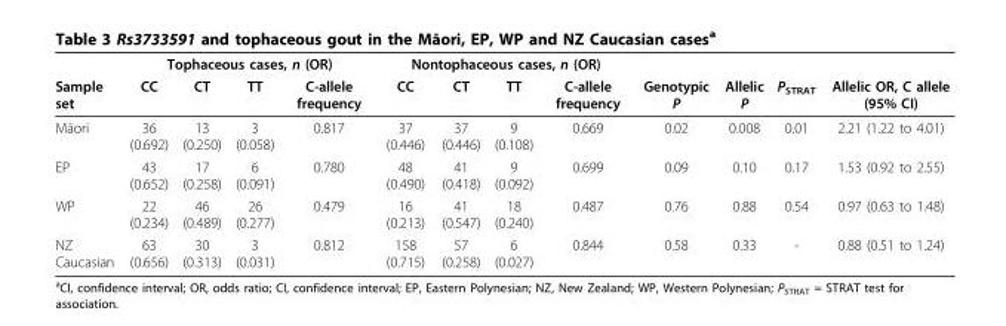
<table><thead><tr><td rowspan="2">Sample set</td><td colspan="4">Tophaceous cases, n (OR)</td><td colspan="4">Nontophaceous cases, n (OR)</td><td rowspan="2">Genotypic P</td><td rowspan="2">Allelic P</td><td rowspan="2">P<sub>STRAT</sub></td><td rowspan="2">Allelic OR, C allele (95% CI)</td></tr><tr><td>CC</td><td>CT</td><td>TT</td><td>C-allele frequency</td><td>CC</td><td>CT</td><td>TT</td><td>C-allele frequency</td></tr></thead><tbody><tr><td>Māori</td><td>36 (0.692)</td><td>13 (0.250)</td><td>3 (0.058)</td><td>0.817</td><td>37 (0.446)</td><td>37 (0.446)</td><td>9 (0.108)</td><td>0.669</td><td>0.02</td><td>0.008</td><td>0.01</td><td>2.21 (1.22 to 4.01)</td></tr><tr><td>EP</td><td>43 (0.652)</td><td>17 (0.258)</td><td>6 (0.091)</td><td>0.780</td><td>48 (0.490)</td><td>41 (0.418)</td><td>9 (0.092)</td><td>0.699</td><td>0.09</td><td>0.10</td><td>0.17</td><td>1.53 (0.92 to 2.55)</td></tr><tr><td>WP</td><td>22 (0.234)</td><td>46 (0.489)</td><td>26 (0.277)</td><td>0.479</td><td>16 (0.213)</td><td>41 (0.547)</td><td>18 (0.240)</td><td>0.487</td><td>0.76</td><td>0.88</td><td>0.54</td><td>0.97 (0.63 to 1.48)</td></tr><tr><td>NZ Caucasian</td><td>63 (0.656)</td><td>30 (0.313)</td><td>3 (0.031)</td><td>0.812</td><td>158 (0.715)</td><td>57 (0.258)</td><td>6 (0.027)</td><td>0.844</td><td>0.58</td><td>0.33</td><td>-</td><td>0.88 (0.51 to 1.24)</td></tr></tbody></table>